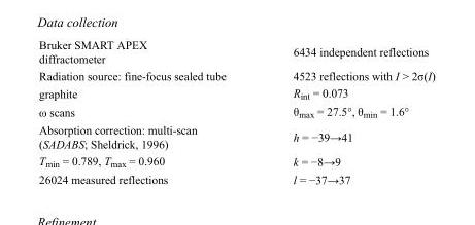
<table><tbody><tr><td>Bruker SMART APEX diffractometer</td><td>6434 independent reflections</td></tr><tr><td>Radiation source: fine-focus sealed tube</td><td>4523 reflections with I &gt; 2σ(I)</td></tr><tr><td>graphite</td><td>R<sub>int</sub> = 0.073</td></tr><tr><td>ω scans</td><td>θ<sub>max</sub> = 27.5°, θ<sub>min</sub> = 1.6°</td></tr><tr><td>Absorption correction: multi-scan (SADABS; Sheldrick, 1996)</td><td>h = −39→41</td></tr><tr><td>T<sub>min</sub> = 0.789, T<sub>max</sub> = 0.960</td><td>k = −8→9</td></tr><tr><td>26024 measured reflections</td><td>l = −37→37</td></tr></tbody></table>